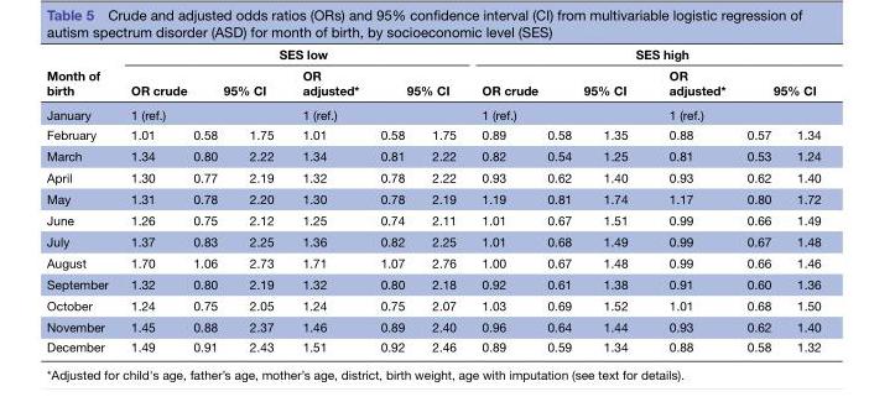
<table><thead><tr><td rowspan="4">Month of birth January February</td><td colspan="6">SES low</td><td colspan="6">SES high</td></tr><tr><td rowspan="3">OR crude 1 (ref.) 1.01</td><td rowspan="2" colspan="2">95% CI</td><td rowspan="3">OR adjusted* 1 (ref.) 1.01</td><td rowspan="2" colspan="2">95% CI</td><td rowspan="3">OR crude 1 (ref.) 0.89</td><td rowspan="2" colspan="2">95% CI</td><td rowspan="3">OR adjusted* 1 (ref.) 0.88</td><td rowspan="2" colspan="2">95% CI</td></tr><tr></tr><tr><td>0.58</td><td>1.75</td><td>0.58</td><td>1.75</td><td>0.58</td><td>1.35</td><td>0.57</td><td>1.34</td></tr></thead><tbody><tr><td>March</td><td>1.34</td><td>0.80</td><td>2.22</td><td>1.34</td><td>0.81</td><td>2.22</td><td>0.82</td><td>0.54</td><td>1.25</td><td>0.81</td><td>0.53</td><td>1.24</td></tr><tr><td>April</td><td>1.30</td><td>0.77</td><td>2.19</td><td>1.32</td><td>0.78</td><td>2.22</td><td>0.93</td><td>0.62</td><td>1.40</td><td>0.93</td><td>0.62</td><td>1.40</td></tr><tr><td>May</td><td>1.31</td><td>0.78</td><td>2.20</td><td>1.30</td><td>0.78</td><td>2.19</td><td>1.19</td><td>0.81</td><td>1.74</td><td>1.17</td><td>0.80</td><td>1.72</td></tr><tr><td>June</td><td>1.26</td><td>0.75</td><td>2.12</td><td>1.25</td><td>0.74</td><td>2.11</td><td>1.01</td><td>0.67</td><td>1.51</td><td>0.99</td><td>0.66</td><td>1.49</td></tr><tr><td>July</td><td>1.37</td><td>0.83</td><td>2.25</td><td>1.36</td><td>0.82</td><td>2.25</td><td>1.01</td><td>0.68</td><td>1.49</td><td>0.99</td><td>0.67</td><td>1.48</td></tr><tr><td>August</td><td>1.70</td><td>1.06</td><td>2.73</td><td>1.71</td><td>1.07</td><td>2.76</td><td>1.00</td><td>0.67</td><td>1.48</td><td>0.99</td><td>0.66</td><td>1.46</td></tr><tr><td>September</td><td>1.32</td><td>0.80</td><td>2.19</td><td>1.32</td><td>0.80</td><td>2.18</td><td>0.92</td><td>0.61</td><td>1.38</td><td>0.91</td><td>0.60</td><td>1.36</td></tr><tr><td>October</td><td>1.24</td><td>0.75</td><td>2.05</td><td>1.24</td><td>0.75</td><td>2.07</td><td>1.03</td><td>0.69</td><td>1.52</td><td>1.01</td><td>0.68</td><td>1.50</td></tr><tr><td>November</td><td>1.45</td><td>0.88</td><td>2.37</td><td>1.46</td><td>0.89</td><td>2.40</td><td>0.96</td><td>0.64</td><td>1.44</td><td>0.93</td><td>0.62</td><td>1.40</td></tr><tr><td>December</td><td>1.49</td><td>0.91</td><td>2.43</td><td>1.51</td><td>0.92</td><td>2.46</td><td>0.89</td><td>0.59</td><td>1.34</td><td>0.88</td><td>0.58</td><td>1.32</td></tr></tbody></table>